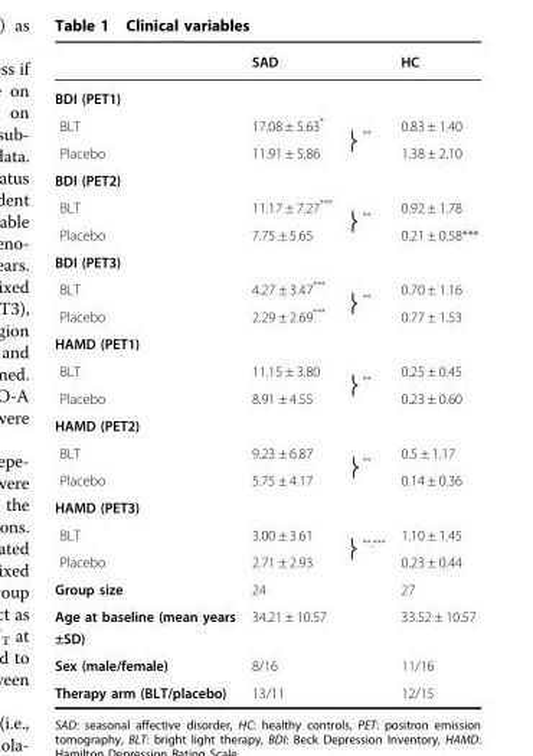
<table><thead><tr><td></td><td>SAD</td><td></td><td>HC</td></tr></thead><tbody><tr><td colspan="4">BDI (PET1)</td></tr><tr><td>BLT</td><td>17.08 ± 5.63*</td><td rowspan="2">**</td><td>0.83 ± 1.40</td></tr><tr><td>Placebo</td><td>11.91 ± 5.86</td><td>1.38 ± 2.10</td></tr><tr><td colspan="4">BDI (PET2)</td></tr><tr><td>BLT</td><td>11.17 ± 7.27***</td><td rowspan="2">**</td><td>0.92 ± 1.78</td></tr><tr><td>Placebo</td><td>7.75 ± 5.65</td><td>0.21 ± 0.58***</td></tr><tr><td colspan="4">BDI (PET3)</td></tr><tr><td>BLT</td><td>4.27 ± 3.47***</td><td rowspan="2">**</td><td>0.70 ± 1.16</td></tr><tr><td>Placebo</td><td>2.29 ± 2.69***</td><td>0.77 ± 1.53</td></tr><tr><td colspan="4">HAMD (PET1)</td></tr><tr><td>BLT</td><td>11.15 ± 3.80</td><td rowspan="2">**</td><td>0.25 ± 0.45</td></tr><tr><td>Placebo</td><td>8.91 ± 4.55</td><td>0.23 ± 0.60</td></tr><tr><td colspan="4">HAMD (PET2)</td></tr><tr><td>BLT</td><td>9.23 ± 6.87</td><td rowspan="2">**</td><td>0.5 ± 1.17</td></tr><tr><td>Placebo</td><td>5.75 ± 4.17</td><td>0.14 ± 0.36</td></tr><tr><td colspan="4">HAMD (PET3)</td></tr><tr><td>BLT</td><td>3.00 ± 3.61</td><td rowspan="2"><sup>**,***</sup></td><td>1.10 ± 1.45</td></tr><tr><td>Placebo</td><td>2.71 ± 2.93</td><td>0.23 ± 0.44</td></tr><tr><td>Group size</td><td>24</td><td rowspan="4"></td><td>27</td></tr><tr><td>Age at baseline (mean years ±SD)</td><td>34.21 ± 10.57</td><td>33.52 ± 10.57</td></tr><tr><td>Sex (male/female)</td><td>8/16</td><td>11/16</td></tr><tr><td>Therapy arm (BLT/placebo)</td><td>13/11</td><td>12/15</td></tr></tbody></table>